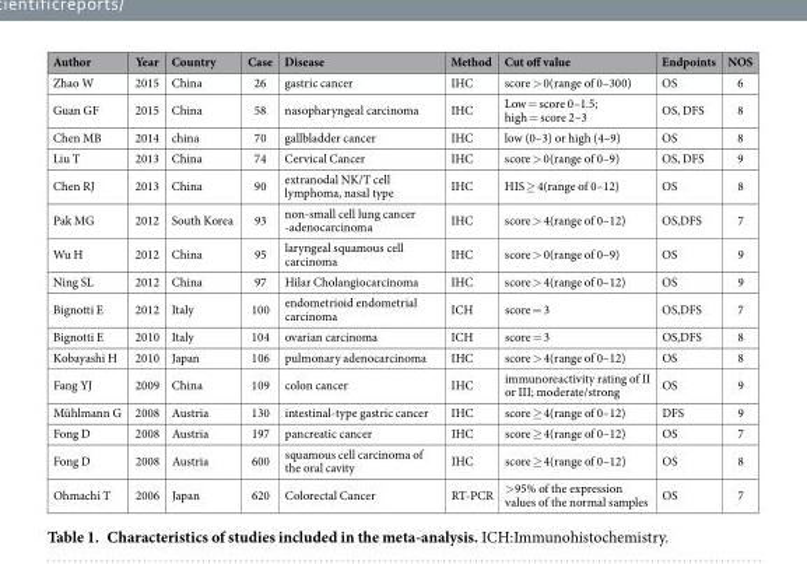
<table><thead><tr><td>Author</td><td>Year</td><td>Country</td><td>Case</td><td>Disease</td><td>Method</td><td>Cut off value</td><td>Endpoints</td><td>NOS</td></tr></thead><tbody><tr><td>Zhao W</td><td>2015</td><td>China</td><td>26</td><td>gastric cancer</td><td>IHC</td><td>score &gt; 0(range of 0–300)</td><td>OS</td><td>6</td></tr><tr><td>Guan GF</td><td>2015</td><td>China</td><td>58</td><td>nasopharyngeal carcinoma</td><td>IHC</td><td>Low = score 0–1.5; high = score 2–3</td><td>OS, DFS</td><td>8</td></tr><tr><td>Chen MB</td><td>2014</td><td>china</td><td>70</td><td>gallbladder cancer</td><td>IHC</td><td>low (0–3) or high (4–9)</td><td>OS</td><td>8</td></tr><tr><td>Liu T</td><td>2013</td><td>China</td><td>74</td><td>Cervical Cancer</td><td>IHC</td><td>score &gt; 0(range of 0–9)</td><td>OS, DFS</td><td>9</td></tr><tr><td>Chen RJ</td><td>2013</td><td>China</td><td>90</td><td>extranodal NK/T cell lymphoma, nasal type</td><td>IHC</td><td>HIS ≥ 4(range of 0–12)</td><td>OS</td><td>8</td></tr><tr><td>Pak MG</td><td>2012</td><td>South Korea</td><td>93</td><td>non-small cell lung cancer -adenocarcinoma</td><td>IHC</td><td>score &gt; 4(range of 0–12)</td><td>OS,DFS</td><td>7</td></tr><tr><td>Wu H</td><td>2012</td><td>China</td><td>95</td><td>laryngeal squamous cell carcinoma</td><td>IHC</td><td>score &gt; 0(range of 0–9)</td><td>OS</td><td>9</td></tr><tr><td>Ning SL</td><td>2012</td><td>China</td><td>97</td><td>Hilar Cholangiocarcinoma</td><td>IHC</td><td>score &gt; 4(range of 0–12)</td><td>OS</td><td>9</td></tr><tr><td>Bignotti E</td><td>2012</td><td>Italy</td><td>100</td><td>endometrioid endometrial carcinoma</td><td>ICH</td><td>score = 3</td><td>OS,DFS</td><td>7</td></tr><tr><td>Bignotti E</td><td>2010</td><td>Italy</td><td>104</td><td>ovarian carcinoma</td><td>ICH</td><td>score = 3</td><td>OS,DFS</td><td>8</td></tr><tr><td>Kobayashi H</td><td>2010</td><td>Japan</td><td>106</td><td>pulmonary adenocarcinoma</td><td>IHC</td><td>score &gt; 4(range of 0–12)</td><td>OS</td><td>8</td></tr><tr><td>Fang YJ</td><td>2009</td><td>China</td><td>109</td><td>colon cancer</td><td>IHC</td><td>immunoreactivity rating of II or III; moderate/strong</td><td>OS</td><td>9</td></tr><tr><td>Mühlmann G</td><td>2008</td><td>Austria</td><td>130</td><td>intestinal-type gastric cancer</td><td>IHC</td><td>score ≥ 4(range of 0–12)</td><td>DFS</td><td>9</td></tr><tr><td>Fong D</td><td>2008</td><td>Austria</td><td>197</td><td>pancreatic cancer</td><td>IHC</td><td>score ≥ 4(range of 0–12)</td><td>OS</td><td>7</td></tr><tr><td>Fong D</td><td>2008</td><td>Austria</td><td>600</td><td>squamous cell carcinoma of the oral cavity</td><td>IHC</td><td>score ≥ 4(range of 0–12)</td><td>OS</td><td>8</td></tr><tr><td>Ohmachi T</td><td>2006</td><td>Japan</td><td>620</td><td>Colorectal Cancer</td><td>RT-PCR</td><td>&gt; 95% of the expression values of the normal samples</td><td>OS</td><td>7</td></tr></tbody></table>